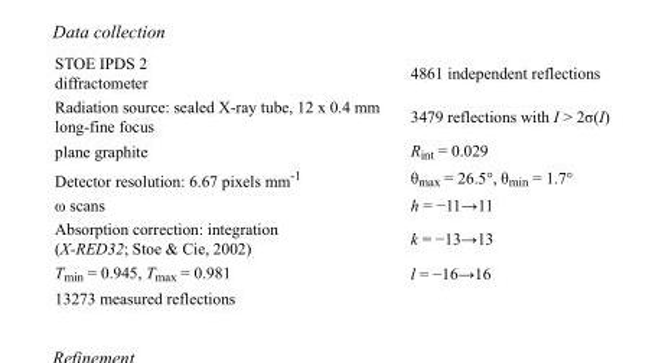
<table><tbody><tr><td>STOE IPDS 2 diffractometer</td><td>4861 independent reflections</td></tr><tr><td>Radiation source: sealed X-ray tube, 12 x 0.4 mm long-fine focus</td><td>3479 reflections with I &gt; 2σ(I)</td></tr><tr><td>plane graphite</td><td>R<sub>int</sub> = 0.029</td></tr><tr><td>Detector resolution: 6.67 pixels mm<sup>-1</sup></td><td>θ<sub>max</sub> = 26.5°, θ<sub>min</sub> = 1.7°</td></tr><tr><td>ω scans</td><td>h = −11→11</td></tr><tr><td>Absorption correction: integration (X-RED32; Stoe &amp; Cie, 2002)</td><td>k = −13→13</td></tr><tr><td>T<sub>min</sub> = 0.945, T<sub>max</sub> = 0.981</td><td>l = −16→16</td></tr><tr><td>13273 measured reflections</td><td></td></tr></tbody></table>